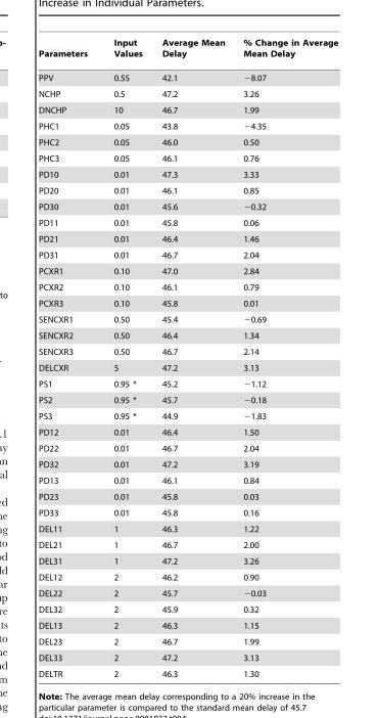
<table><thead><tr><td>Parameters</td><td>Input Values</td><td>Average Mean Delay</td><td>% Change in Average Mean Delay</td></tr></thead><tbody><tr><td>PPV</td><td>0.55</td><td>42.1</td><td>−8.07</td></tr><tr><td>NCHP</td><td>0.5</td><td>47.2</td><td>3.26</td></tr><tr><td>DNCHP</td><td>10</td><td>46.7</td><td>1.99</td></tr><tr><td>PHC1</td><td>0.05</td><td>43.8</td><td>−4.35</td></tr><tr><td>PHC2</td><td>0.05</td><td>46.0</td><td>0.50</td></tr><tr><td>PHC3</td><td>0.05</td><td>46.1</td><td>0.76</td></tr><tr><td>PD10</td><td>0.01</td><td>47.3</td><td>3.33</td></tr><tr><td>PD20</td><td>0.01</td><td>46.1</td><td>0.85</td></tr><tr><td>PD30</td><td>0.01</td><td>45.6</td><td>−0.32</td></tr><tr><td>PD11</td><td>0.01</td><td>45.8</td><td>0.06</td></tr><tr><td>PD21</td><td>0.01</td><td>46.4</td><td>1.46</td></tr><tr><td>PD31</td><td>0.01</td><td>46.7</td><td>2.04</td></tr><tr><td>PCXR1</td><td>0.10</td><td>47.0</td><td>2.84</td></tr><tr><td>PCXR2</td><td>0.10</td><td>46.1</td><td>0.79</td></tr><tr><td>PCXR3</td><td>0.10</td><td>45.8</td><td>0.01</td></tr><tr><td>SENCXR1</td><td>0.50</td><td>45.4</td><td>−0.69</td></tr><tr><td>SENCXR2</td><td>0.50</td><td>46.4</td><td>1.34</td></tr><tr><td>SENCXR3</td><td>0.50</td><td>46.7</td><td>2.14</td></tr><tr><td>DELCXR</td><td>5</td><td>47.2</td><td>3.13</td></tr><tr><td>PS1</td><td>0.95 *</td><td>45.2</td><td>−1.12</td></tr><tr><td>PS2</td><td>0.95 *</td><td>45.7</td><td>−0.18</td></tr><tr><td>PS3</td><td>0.95 *</td><td>44.9</td><td>−1.83</td></tr><tr><td>PD12</td><td>0.01</td><td>46.4</td><td>1.50</td></tr><tr><td>PD22</td><td>0.01</td><td>46.7</td><td>2.04</td></tr><tr><td>PD32</td><td>0.01</td><td>47.2</td><td>3.19</td></tr><tr><td>PD13</td><td>0.01</td><td>46.1</td><td>0.84</td></tr><tr><td>PD23</td><td>0.01</td><td>45.8</td><td>0.03</td></tr><tr><td>PD33</td><td>0.01</td><td>45.8</td><td>0.16</td></tr><tr><td>DEL11</td><td>1</td><td>46.3</td><td>1.22</td></tr><tr><td>DEL21</td><td>1</td><td>46.7</td><td>2.00</td></tr><tr><td>DEL31</td><td>1</td><td>47.2</td><td>3.26</td></tr><tr><td>DEL12</td><td>2</td><td>46.2</td><td>0.90</td></tr><tr><td>DEL22</td><td>2</td><td>45.7</td><td>−0.03</td></tr><tr><td>DEL32</td><td>2</td><td>45.9</td><td>0.32</td></tr><tr><td>DEL13</td><td>2</td><td>46.3</td><td>1.15</td></tr><tr><td>DEL23</td><td>2</td><td>46.7</td><td>1.99</td></tr><tr><td>DEL33</td><td>2</td><td>47.2</td><td>3.13</td></tr><tr><td>DELTR</td><td>2</td><td>46.3</td><td>1.30</td></tr></tbody></table>